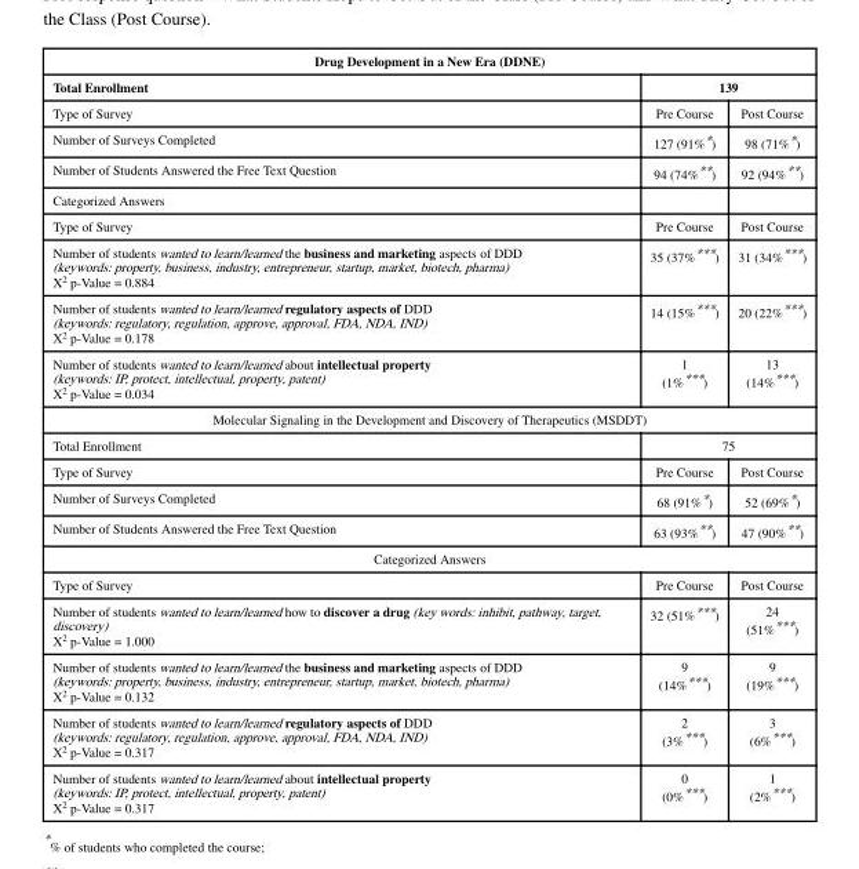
<table><thead><tr><td colspan="3">Drug Development in a New Era (DDNE)</td></tr><tr><td rowspan="2">Total Enrollment Type of Survey</td><td colspan="2">139</td></tr><tr><td>Pre Course</td><td>Post Course</td></tr></thead><tbody><tr><td>Number of Surveys Completed</td><td>127 (91%*)</td><td>98 (71%*)</td></tr><tr><td>Number of Students Answered the Free Text Question</td><td>94 (74%**)</td><td>92 (94%**)</td></tr><tr><td colspan="3">Categorized Answers</td></tr><tr><td>Type of Survey</td><td>Pre Course</td><td>Post Course</td></tr><tr><td>Number of students wanted to learn/learned the business and marketing aspects of DDD (keywords: property, business, industry, entrepreneur, startup, market, biotech, pharma) X<sup>2</sup> p-Value = 0.884</td><td>35 (37%***)</td><td>31 (34%***)</td></tr><tr><td>Number of students wanted to learn/learned regulatory aspects of DDD (keywords: regulatory, regulation, approve, approval, FDA, NDA, IND) X<sup>2</sup> p-Value = 0.178</td><td>14 (15%***)</td><td>20 (22%***)</td></tr><tr><td>Number of students wanted to learn/learned about intellectual property (keywords: IP, protect, intellectual, property, patent) X<sup>2</sup> p-Value = 0.034</td><td>1 (1%***)</td><td>13 (14%***)</td></tr><tr><td colspan="3">Molecular Signaling in the Development and Discovery of Therapeutics (MSDDT)</td></tr><tr><td>Total Enrollment</td><td colspan="2">75</td></tr><tr><td>Type of Survey</td><td>Pre Course</td><td>Post Course</td></tr><tr><td>Number of Surveys Completed</td><td>68 (91%*)</td><td>52 (69%*)</td></tr><tr><td>Number of Students Answered the Free Text Question</td><td>63 (93%**)</td><td>47 (90%**)</td></tr><tr><td colspan="3">Categorized Answers</td></tr><tr><td>Type of Survey</td><td>Pre Course</td><td>Post Course</td></tr><tr><td>Number of students wanted to learn/learned how to discover a drug (key words: inhibit, pathway, target, discovery) X<sup>2</sup> p-Value = 1.000</td><td>32 (51%***)</td><td>24 (51%***)</td></tr><tr><td>Number of students wanted to learn/learned the business and marketing aspects of DDD (keywords: property, business, industry, entrepreneur, startup, market, biotech, pharma) X<sup>2</sup> p-Value = 0.132</td><td>9 (14%***)</td><td>9 (19%***)</td></tr><tr><td>Number of students wanted to learn/learned regulatory aspects of DDD (keywords: regulatory, regulation, approve, approval, FDA, NDA, IND) X<sup>2</sup> p-Value = 0.317</td><td>2 (3%***)</td><td>3 (6%***)</td></tr><tr><td>Number of students wanted to learn/learned about intellectual property (keywords: IP, protect, intellectual, property, patent) X<sup>2</sup> p-Value = 0.317</td><td>0 (0%***)</td><td>1 (2%***)</td></tr></tbody></table>